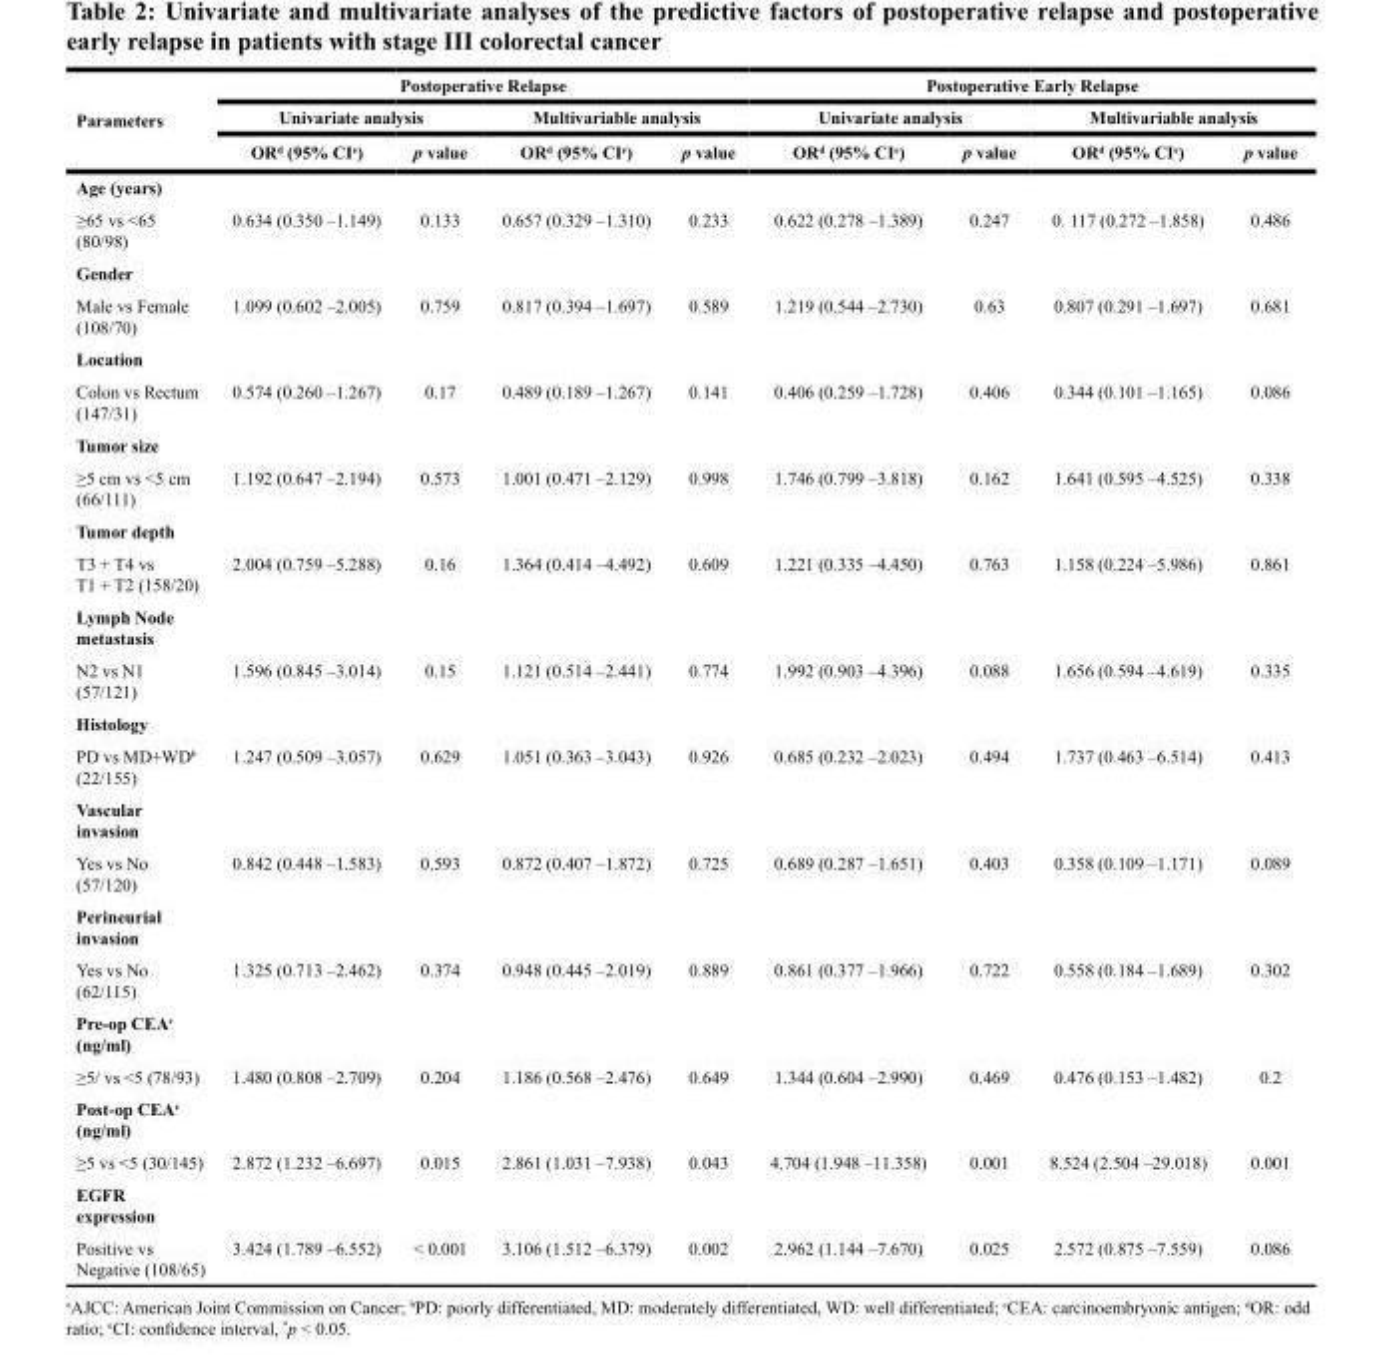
<table><thead><tr><td rowspan="3">Parameters</td><td colspan="4">Postoperative Relapse</td><td colspan="4">Postoperative Early Relapse</td></tr><tr><td colspan="2">Univariate analysis</td><td colspan="2">Multivariable analysis</td><td colspan="2">Univariate analysis</td><td colspan="2">Multivariable analysis</td></tr><tr><td>OR<sup>d</sup> (95% CI<sup>e</sup>)</td><td>p value</td><td>OR<sup>d</sup> (95% CI<sup>e</sup>)</td><td>p value</td><td>OR<sup>d</sup> (95% CI<sup>e</sup>)</td><td>p value</td><td>OR<sup>d</sup> (95% CI<sup>e</sup>)</td><td>p value</td></tr></thead><tbody><tr><td colspan="9">Age (years)</td></tr><tr><td>≥65 vs &lt;65 (80/98)</td><td>0.634 (0.350 –1.149)</td><td>0.133</td><td>0.657 (0.329 –1.310)</td><td>0.233</td><td>0.622 (0.278 –1.389)</td><td>0.247</td><td>0. 117 (0.272 –1.858)</td><td>0.486</td></tr><tr><td colspan="9">Gender</td></tr><tr><td>Male vs Female (108/70)</td><td>1.099 (0.602 –2.005)</td><td>0.759</td><td>0.817 (0.394 –1.697)</td><td>0.589</td><td>1.219 (0.544 –2.730)</td><td>0.63</td><td>0.807 (0.291 –1.697)</td><td>0.681</td></tr><tr><td colspan="9">Location</td></tr><tr><td>Colon vs Rectum (147/31)</td><td>0.574 (0.260 –1.267)</td><td>0.17</td><td>0.489 (0.189 –1.267)</td><td>0.141</td><td>0.406 (0.259 –1.728)</td><td>0.406</td><td>0.344 (0.101 –1.165)</td><td>0.086</td></tr><tr><td colspan="9">Tumor size</td></tr><tr><td>≥5 cm vs &lt;5 cm (66/111)</td><td>1.192 (0.647 –2.194)</td><td>0.573</td><td>1.001 (0.471 –2.129)</td><td>0.998</td><td>1.746 (0.799 –3.818)</td><td>0.162</td><td>1.641 (0.595 –4.525)</td><td>0.338</td></tr><tr><td colspan="9">Tumor depth</td></tr><tr><td>T3 + T4 vs T1 + T2 (158/20)</td><td>2.004 (0.759 –5.288)</td><td>0.16</td><td>1.364 (0.414 –4.492)</td><td>0.609</td><td>1.221 (0.335 –4.450)</td><td>0.763</td><td>1.158 (0.224 –5.986)</td><td>0.861</td></tr><tr><td colspan="9">Lymph Node metastasis</td></tr><tr><td>N2 vs N1 (57/121)</td><td>1.596 (0.845 –3.014)</td><td>0.15</td><td>1.121 (0.514 –2.441)</td><td>0.774</td><td>1.992 (0.903 –4.396)</td><td>0.088</td><td>1.656 (0.594 –4.619)</td><td>0.335</td></tr><tr><td colspan="9">Histology</td></tr><tr><td>PD vs MD+WD<sup>b</sup> (22/155)</td><td>1.247 (0.509 –3.057)</td><td>0.629</td><td>1.051 (0.363 –3.043)</td><td>0.926</td><td>0.685 (0.232 –2.023)</td><td>0.494</td><td>1.737 (0.463 –6.514)</td><td>0.413</td></tr><tr><td colspan="9">Vascular invasion</td></tr><tr><td>Yes vs No (57/120)</td><td>0.842 (0.448 –1.583)</td><td>0.593</td><td>0.872 (0.407 –1.872)</td><td>0.725</td><td>0.689 (0.287 –1.651)</td><td>0.403</td><td>0.358 (0.109 –1.171)</td><td>0.089</td></tr><tr><td colspan="9">Perineurial invasion</td></tr><tr><td>Yes vs No (62/115)</td><td>1.325 (0.713 –2.462)</td><td>0.374</td><td>0.948 (0.445 –2.019)</td><td>0.889</td><td>0.861 (0.377 –1.966)</td><td>0.722</td><td>0.558 (0.184 –1.689)</td><td>0.302</td></tr><tr><td colspan="9">Pre-op CEA<sup>c</sup> (ng/ml)</td></tr><tr><td>≥5/ vs &lt;5 (78/93)</td><td>1.480 (0.808 –2.709)</td><td>0.204</td><td>1.186 (0.568 –2.476)</td><td>0.649</td><td>1.344 (0.604 –2.990)</td><td>0.469</td><td>0.476 (0.153 –1.482)</td><td>0.2</td></tr><tr><td colspan="9">Post-op CEA<sup>c</sup> (ng/ml)</td></tr><tr><td>≥5 vs &lt;5 (30/145)</td><td>2.872 (1.232 –6.697)</td><td>0.015</td><td>2.861 (1.031 –7.938)</td><td>0.043</td><td>4.704 (1.948 –11.358)</td><td>0.001</td><td>8.524 (2.504 –29.018)</td><td>0.001</td></tr><tr><td colspan="9">EGFR expression</td></tr><tr><td>Positive vs Negative (108/65)</td><td>3.424 (1.789 –6.552)</td><td>&lt; 0.001</td><td>3.106 (1.512 –6.379)</td><td>0.002</td><td>2.962 (1.144 –7.670)</td><td>0.025</td><td>2.572 (0.875 –7.559)</td><td>0.086</td></tr></tbody></table>